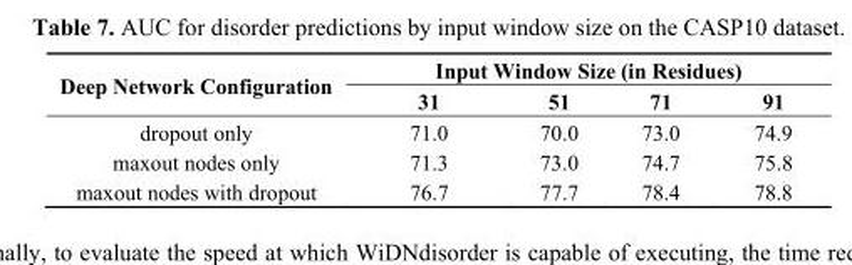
<table><thead><tr><td rowspan="2">Deep Network Configuration</td><td colspan="4">Input Window Size (in Residues)</td></tr><tr><td>31</td><td>51</td><td>71</td><td>91</td></tr></thead><tbody><tr><td>dropout only</td><td>71.0</td><td>70.0</td><td>73.0</td><td>74.9</td></tr><tr><td>maxout nodes only</td><td>71.3</td><td>73.0</td><td>74.7</td><td>75.8</td></tr><tr><td>maxout nodes with dropout</td><td>76.7</td><td>77.7</td><td>78.4</td><td>78.8</td></tr></tbody></table>